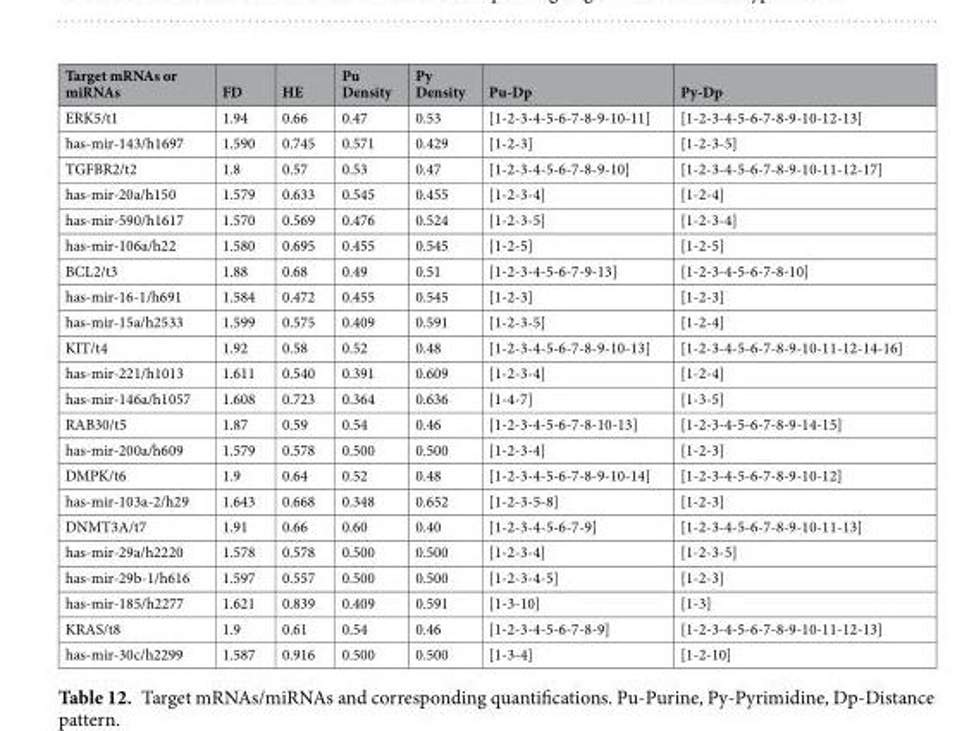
<table><thead><tr><td>Target mRNAs or miRNAs</td><td>FD</td><td>HE</td><td>Pu Density</td><td>Py Density</td><td>Pu-Dp</td><td>Py-Dp</td></tr></thead><tbody><tr><td>ERK5/t1</td><td>1.94</td><td>0.66</td><td>0.47</td><td>0.53</td><td>[1-2-3-4-5-6-7-8-9-10-11]</td><td>[1-2-3-4-5-6-7-8-9-10-12-13]</td></tr><tr><td>has-mir-143/h1697</td><td>1.590</td><td>0.745</td><td>0.571</td><td>0.429</td><td>[1-2-3]</td><td>[1-2-3-5]</td></tr><tr><td>TGFBR2/t2</td><td>1.8</td><td>0.57</td><td>0.53</td><td>0.47</td><td>[1-2-3-4-5-6-7-8-9-10]</td><td>[1-2-3-4-5-6-7-8-9-10-11-12-17]</td></tr><tr><td>has-mir-20a/h150</td><td>1.579</td><td>0.633</td><td>0.545</td><td>0.455</td><td>[1-2-3-4]</td><td>[1-2-4]</td></tr><tr><td>has-mir-590/h1617</td><td>1.570</td><td>0.569</td><td>0.476</td><td>0.524</td><td>[1-2-3-5]</td><td>[1-2-3-4]</td></tr><tr><td>has-mir-106a/h22</td><td>1.580</td><td>0.695</td><td>0.455</td><td>0.545</td><td>[1-2-5]</td><td>[1-2-5]</td></tr><tr><td>BCL2/t3</td><td>1.88</td><td>0.68</td><td>0.49</td><td>0.51</td><td>[1-2-3-4-5-6-7-9-13]</td><td>[1-2-3-4-5-6-7-8-10]</td></tr><tr><td>has-mir-16-1/h691</td><td>1.584</td><td>0.472</td><td>0.455</td><td>0.545</td><td>[1-2-3]</td><td>[1-2-3]</td></tr><tr><td>has-mir-15a/h2533</td><td>1.599</td><td>0.575</td><td>0.409</td><td>0.591</td><td>[1-2-3-5]</td><td>[1-2-4]</td></tr><tr><td>KIT/t4</td><td>1.92</td><td>0.58</td><td>0.52</td><td>0.48</td><td>[1-2-3-4-5-6-7-8-9-10-13]</td><td>[1-2-3-4-5-6-7-8-9-10-11-12-14-16]</td></tr><tr><td>has-mir-221/h1013</td><td>1.611</td><td>0.540</td><td>0.391</td><td>0.609</td><td>[1-2-3-4]</td><td>[1-2-4]</td></tr><tr><td>has-mir-146a/h1057</td><td>1.608</td><td>0.723</td><td>0.364</td><td>0.636</td><td>[1-4-7]</td><td>[1-3-5]</td></tr><tr><td>RAB30/t5</td><td>1.87</td><td>0.59</td><td>0.54</td><td>0.46</td><td>[1-2-3-4-5-6-7-8-10-13]</td><td>[1-2-3-4-5-6-7-8-9-14-15]</td></tr><tr><td>has-mir-200a/h609</td><td>1.579</td><td>0.578</td><td>0.500</td><td>0.500</td><td>[1-2-3-4]</td><td>[1-2-3]</td></tr><tr><td>DMPK/t6</td><td>1.9</td><td>0.64</td><td>0.52</td><td>0.48</td><td>[1-2-3-4-5-6-7-8-9-10-14]</td><td>[1-2-3-4-5-6-7-8-9-10-12]</td></tr><tr><td>has-mir-103a-2/h29</td><td>1.643</td><td>0.668</td><td>0.348</td><td>0.652</td><td>[1-2-3-5-8]</td><td>[1-2-3]</td></tr><tr><td>DNMT3A/t7</td><td>1.91</td><td>0.66</td><td>0.60</td><td>0.40</td><td>[1-2-3-4-5-6-7-9]</td><td>[1-2-3-4-5-6-7-8-9-10-11-13]</td></tr><tr><td>has-mir-29a/h2220</td><td>1.578</td><td>0.578</td><td>0.500</td><td>0.500</td><td>[1-2-3-4]</td><td>[1-2-3-5]</td></tr><tr><td>has-mir-29b-1/h616</td><td>1.597</td><td>0.557</td><td>0.500</td><td>0.500</td><td>[1-2-3-4-5]</td><td>[1-2-3]</td></tr><tr><td>has-mir-185/h2277</td><td>1.621</td><td>0.839</td><td>0.409</td><td>0.591</td><td>[1-3-10]</td><td>[1-3]</td></tr><tr><td>KRAS/t8</td><td>1.9</td><td>0.61</td><td>0.54</td><td>0.46</td><td>[1-2-3-4-5-6-7-8-9]</td><td>[1-2-3-4-5-6-7-8-9-10-11-12-13]</td></tr><tr><td>has-mir-30c/h2299</td><td>1.587</td><td>0.916</td><td>0.500</td><td>0.500</td><td>[1-3-4]</td><td>[1-2-10]</td></tr></tbody></table>